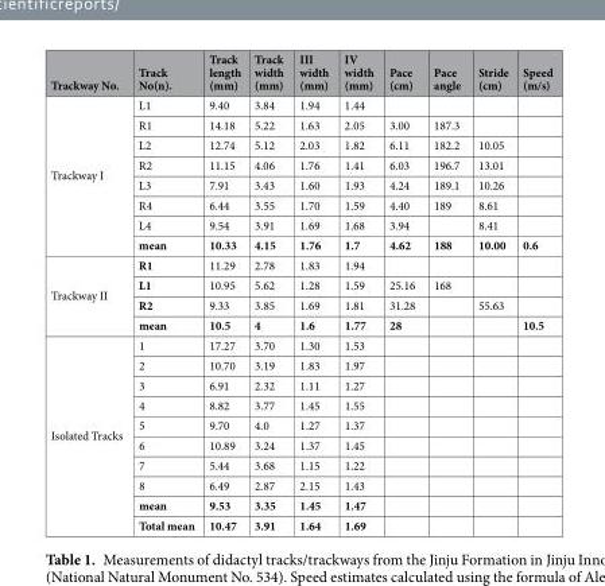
<table><thead><tr><td>Trackway No.</td><td>Track No(n).</td><td>Track length (mm)</td><td>Track width (mm)</td><td>III width (mm)</td><td>IV width (mm)</td><td>Pace (cm)</td><td>Pace angle</td><td>Stride (cm)</td><td>Speed (m/s)</td></tr></thead><tbody><tr><td rowspan="8">Trackway I</td><td>L1</td><td>9.40</td><td>3.84</td><td>1.94</td><td>1.44</td><td></td><td></td><td></td><td></td></tr><tr><td>R1</td><td>14.18</td><td>5.22</td><td>1.63</td><td>2.05</td><td>3.00</td><td>187.3</td><td></td><td></td></tr><tr><td>L2</td><td>12.74</td><td>5.12</td><td>2.03</td><td>1.82</td><td>6.11</td><td>182.2</td><td>10.05</td><td></td></tr><tr><td>R2</td><td>11.15</td><td>4.06</td><td>1.76</td><td>1.41</td><td>6.03</td><td>196.7</td><td>13.01</td><td></td></tr><tr><td>L3</td><td>7.91</td><td>3.43</td><td>1.60</td><td>1.93</td><td>4.24</td><td>189.1</td><td>10.26</td><td></td></tr><tr><td>R4</td><td>6.44</td><td>3.55</td><td>1.70</td><td>1.59</td><td>4.40</td><td>189</td><td>8.61</td><td></td></tr><tr><td>L4</td><td>9.54</td><td>3.91</td><td>1.69</td><td>1.68</td><td>3.94</td><td></td><td>8.41</td><td></td></tr><tr><td>mean</td><td>10.33</td><td>4.15</td><td>1.76</td><td>1.7</td><td>4.62</td><td>188</td><td>10.00</td><td>0.6</td></tr><tr><td rowspan="4">Trackway II</td><td>R1</td><td>11.29</td><td>2.78</td><td>1.83</td><td>1.94</td><td></td><td></td><td></td><td></td></tr><tr><td>L1</td><td>10.95</td><td>5.62</td><td>1.28</td><td>1.59</td><td>25.16</td><td>168</td><td></td><td></td></tr><tr><td>R2</td><td>9.33</td><td>3.85</td><td>1.69</td><td>1.81</td><td>31.28</td><td></td><td>55.63</td><td></td></tr><tr><td>mean</td><td>10.5</td><td>4</td><td>1.6</td><td>1.77</td><td>28</td><td></td><td></td><td>10.5</td></tr><tr><td rowspan="10">Isolated Tracks</td><td>1</td><td>17.27</td><td>3.70</td><td>1.30</td><td>1.53</td><td></td><td></td><td></td><td></td></tr><tr><td>2</td><td>10.70</td><td>3.19</td><td>1.83</td><td>1.97</td><td></td><td></td><td></td><td></td></tr><tr><td>3</td><td>6.91</td><td>2.32</td><td>1.11</td><td>1.27</td><td></td><td></td><td></td><td></td></tr><tr><td>4</td><td>8.82</td><td>3.77</td><td>1.45</td><td>1.55</td><td></td><td></td><td></td><td></td></tr><tr><td>5</td><td>9.70</td><td>4.0</td><td>1.27</td><td>1.37</td><td></td><td></td><td></td><td></td></tr><tr><td>6</td><td>10.89</td><td>3.24</td><td>1.37</td><td>1.45</td><td></td><td></td><td></td><td></td></tr><tr><td>7</td><td>5.44</td><td>3.68</td><td>1.15</td><td>1.22</td><td></td><td></td><td></td><td></td></tr><tr><td>8</td><td>6.49</td><td>2.87</td><td>2.15</td><td>1.43</td><td></td><td></td><td></td><td></td></tr><tr><td>mean</td><td>9.53</td><td>3.35</td><td>1.45</td><td>1.47</td><td></td><td></td><td></td><td></td></tr><tr><td>Total mean</td><td>10.47</td><td>3.91</td><td>1.64</td><td>1.69</td><td></td><td></td><td></td><td></td></tr></tbody></table>